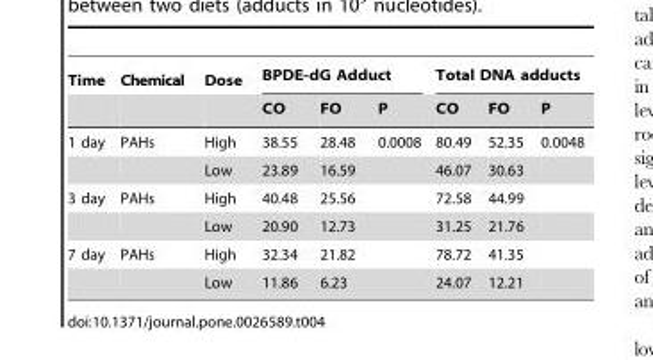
<table><thead><tr><td rowspan="2">Time</td><td rowspan="2">Chemical</td><td rowspan="2">Dose</td><td colspan="3">BPDE-dG Adduct</td><td colspan="3">Total DNA adducts</td></tr><tr><td>CO</td><td>FO</td><td>P</td><td>CO</td><td>FO</td><td>P</td></tr></thead><tbody><tr><td rowspan="2">1 day</td><td>PAHs</td><td>High</td><td>38.55</td><td>28.48</td><td>0.0008</td><td>80.49</td><td>52.35</td><td>0.0048</td></tr><tr><td></td><td>Low</td><td>23.89</td><td>16.59</td><td></td><td>46.07</td><td>30.63</td><td></td></tr><tr><td rowspan="2">3 day</td><td>PAHs</td><td>High</td><td>40.48</td><td>25.56</td><td></td><td>72.58</td><td>44.99</td><td></td></tr><tr><td></td><td>Low</td><td>20.90</td><td>12.73</td><td></td><td>31.25</td><td>21.76</td><td></td></tr><tr><td rowspan="2">7 day</td><td>PAHs</td><td>High</td><td>32.34</td><td>21.82</td><td></td><td>78.72</td><td>41.35</td><td></td></tr><tr><td></td><td>Low</td><td>11.86</td><td>6.23</td><td></td><td>24.07</td><td>12.21</td><td></td></tr></tbody></table>